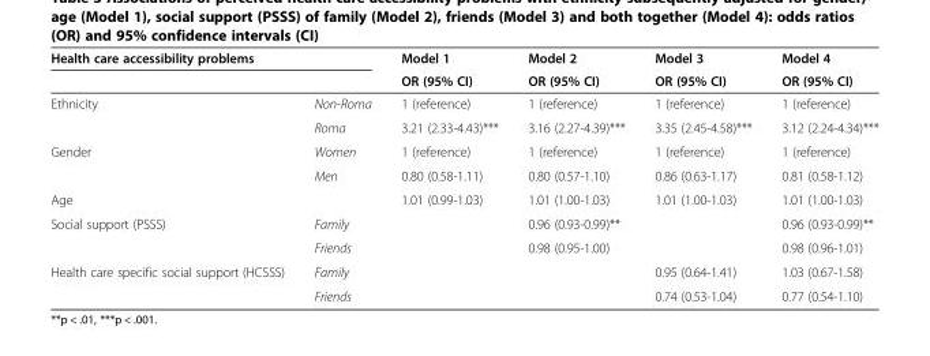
<table><thead><tr><td colspan="2">Health care accessibility problems</td><td rowspan="2">Model 1 OR (95% CI)</td><td rowspan="2">Model 2 OR (95% CI)</td><td rowspan="2">Model 3 OR (95% CI)</td><td rowspan="2">Model 4 OR (95% CI)</td></tr><tr><td></td><td></td></tr></thead><tbody><tr><td rowspan="2">Ethnicity</td><td>Non-Roma</td><td>1 (reference)</td><td>1 (reference)</td><td>1 (reference)</td><td>1 (reference)</td></tr><tr><td>Roma</td><td>3.21 (2.33-4.43)***</td><td>3.16 (2.27-4.39)***</td><td>3.35 (2.45-4.58)***</td><td>3.12 (2.24-4.34)***</td></tr><tr><td rowspan="2">Gender</td><td>Women</td><td>1 (reference)</td><td>1 (reference)</td><td>1 (reference)</td><td>1 (reference)</td></tr><tr><td>Men</td><td>0.80 (0.58-1.11)</td><td>0.80 (0.57-1.10)</td><td>0.86 (0.63-1.17)</td><td>0.81 (0.58-1.12)</td></tr><tr><td>Age</td><td></td><td>1.01 (0.99-1.03)</td><td>1.01 (1.00-1.03)</td><td>1.01 (1.00-1.03)</td><td>1.01 (1.00-1.03)</td></tr><tr><td rowspan="2">Social support (PSSS)</td><td>Family</td><td></td><td>0.96 (0.93-0.99)**</td><td></td><td>0.96 (0.93-0.99)**</td></tr><tr><td>Friends</td><td></td><td>0.98 (0.95-1.00)</td><td></td><td>0.98 (0.96-1.01)</td></tr><tr><td rowspan="2">Health care specific social support (HCSSS)</td><td>Family</td><td></td><td></td><td>0.95 (0.64-1.41)</td><td>1.03 (0.67-1.58)</td></tr><tr><td>Friends</td><td></td><td></td><td>0.74 (0.53-1.04)</td><td>0.77 (0.54-1.10)</td></tr></tbody></table>